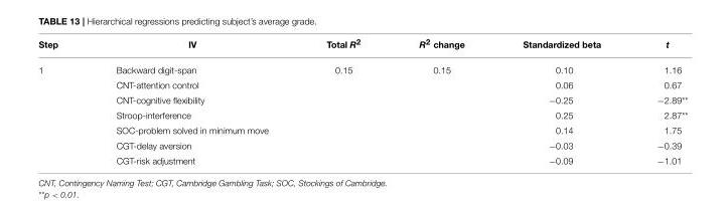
<table><thead><tr><td>Step</td><td>IV</td><td>Total R<sup>2</sup></td><td>R<sup>2</sup> change</td><td>Standardized beta</td><td>t</td></tr></thead><tbody><tr><td rowspan="7">1</td><td>Backward digit-span</td><td>0.15</td><td>0.15</td><td>0.10</td><td>1.16</td></tr><tr><td>CNT-attention control</td><td></td><td></td><td>0.06</td><td>0.67</td></tr><tr><td>CNT-cognitive flexibility</td><td></td><td></td><td>−0.25</td><td>−2.89**</td></tr><tr><td>Stroop-interference</td><td></td><td></td><td>0.25</td><td>2.87**</td></tr><tr><td>SOC-problem solved in minimum move</td><td></td><td></td><td>0.14</td><td>1.75</td></tr><tr><td>CGT-delay aversion</td><td></td><td></td><td>−0.03</td><td>−0.39</td></tr><tr><td>CGT-risk adjustment</td><td></td><td></td><td>−0.09</td><td>−1.01</td></tr></tbody></table>